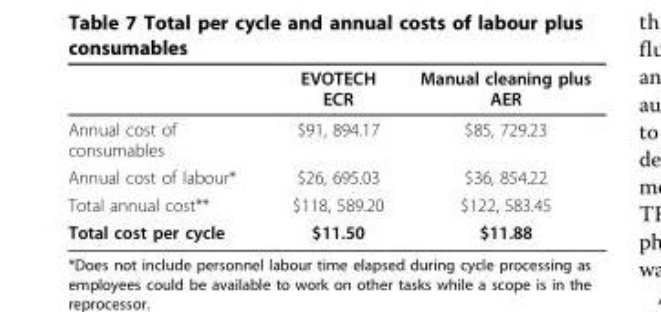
<table><thead><tr><td></td><td>EVOTECH ECR</td><td>Manual cleaning plus AER</td></tr></thead><tbody><tr><td>Annual cost of consumables</td><td>$91, 894.17</td><td>$85, 729.23</td></tr><tr><td>Annual cost of labour*</td><td>$26, 695.03</td><td>$36, 854.22</td></tr><tr><td>Total annual cost**</td><td>$118, 589.20</td><td>$122, 583.45</td></tr><tr><td>Total cost per cycle</td><td>$11.50</td><td>$11.88</td></tr></tbody></table>